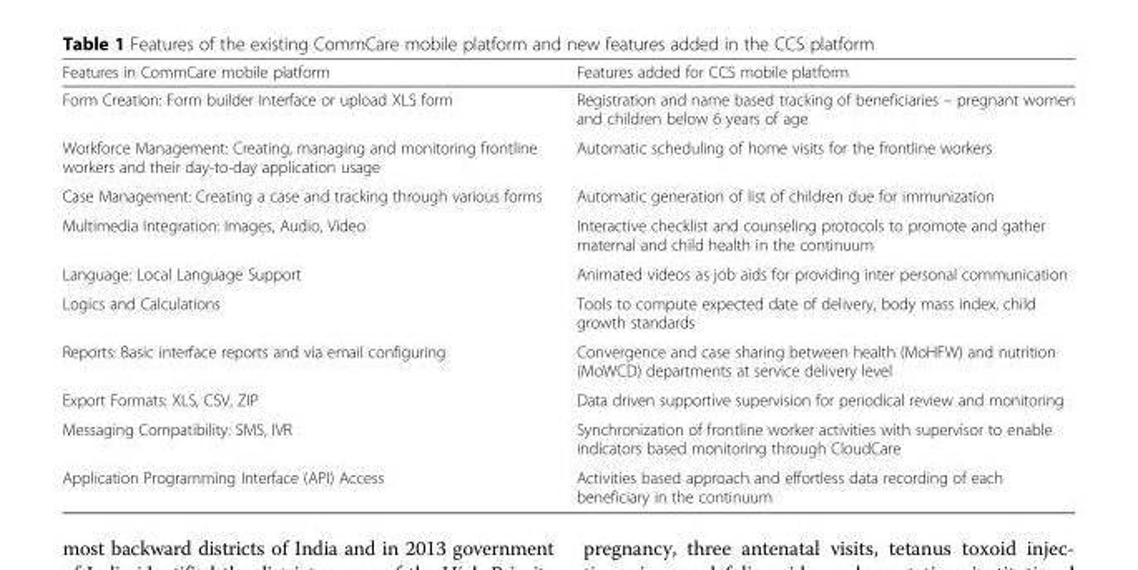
<table><thead><tr><td>Features in CommCare mobile platform</td><td>Features added for CCS mobile platform</td></tr></thead><tbody><tr><td>Form Creation: Form builder Interface or upload XLS form</td><td>Registration and name based tracking of beneficiaries – pregnant women and children below 6 years of age</td></tr><tr><td>Workforce Management: Creating, managing and monitoring frontline workers and their day-to-day application usage</td><td>Automatic scheduling of home visits for the frontline workers</td></tr><tr><td>Case Management: Creating a case and tracking through various forms</td><td>Automatic generation of list of children due for immunization</td></tr><tr><td>Multimedia Integration: Images, Audio, Video</td><td>Interactive checklist and counseling protocols to promote and gather maternal and child health in the continuum</td></tr><tr><td>Language: Local Language Support</td><td>Animated videos as job aids for providing inter personal communication</td></tr><tr><td>Logics and Calculations</td><td>Tools to compute expected date of delivery, body mass index, child growth standards</td></tr><tr><td>Reports: Basic interface reports and via email configuring</td><td>Convergence and case sharing between health (MoHFW) and nutrition (MoWCD) departments at service delivery level</td></tr><tr><td>Export Formats: XLS, CSV, ZIP</td><td>Data driven supportive supervision for periodical review and monitoring</td></tr><tr><td>Messaging Compatibility: SMS, IVR</td><td>Synchronization of frontline worker activities with supervisor to enable indicators based monitoring through CloudCare</td></tr><tr><td>Application Programming Interface (API) Access</td><td>Activities based approach and effortless data recording of each beneficiary in the continuum</td></tr></tbody></table>